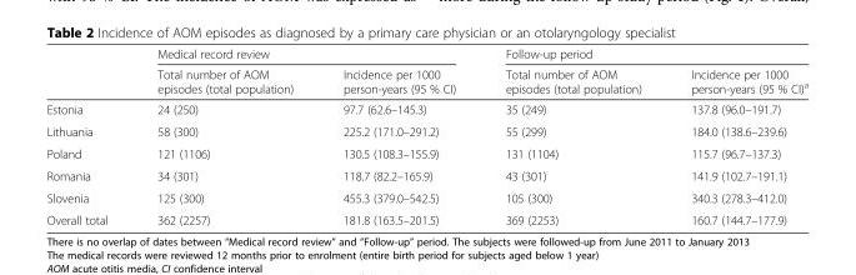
<table><thead><tr><td rowspan="2"></td><td colspan="2">Medical record review</td><td colspan="2">Follow-up period</td></tr><tr><td>Total number of AOM episodes (total population)</td><td>Incidence per 1000 person-years (95 % CI)</td><td>Total number of AOM episodes (total population)</td><td>Incidence per 1000 person-years (95 % CI)<sup>a</sup></td></tr></thead><tbody><tr><td>Estonia</td><td>24 (250)</td><td>97.7 (62.6–145.3)</td><td>35 (249)</td><td>137.8 (96.0–191.7)</td></tr><tr><td>Lithuania</td><td>58 (300)</td><td>225.2 (171.0–291.2)</td><td>55 (299)</td><td>184.0 (138.6–239.6)</td></tr><tr><td>Poland</td><td>121 (1106)</td><td>130.5 (108.3–155.9)</td><td>131 (1104)</td><td>115.7 (96.7–137.3)</td></tr><tr><td>Romania</td><td>34 (301)</td><td>118.7 (82.2–165.9)</td><td>43 (301)</td><td>141.9 (102.7–191.1)</td></tr><tr><td>Slovenia</td><td>125 (300)</td><td>455.3 (379.0–542.5)</td><td>105 (300)</td><td>340.3 (278.3–412.0)</td></tr><tr><td>Overall total</td><td>362 (2257)</td><td>181.8 (163.5–201.5)</td><td>369 (2253)</td><td>160.7 (144.7–177.9)</td></tr></tbody></table>